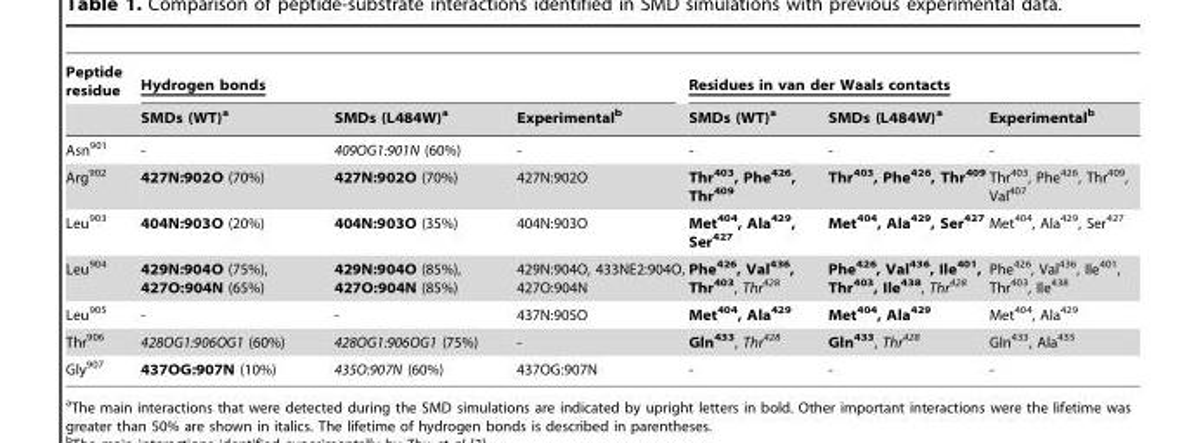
<table><thead><tr><td rowspan="2">Peptide residue</td><td colspan="3">Hydrogen bonds</td><td colspan="3">Residues in van der Waals contacts</td></tr><tr><td>SMDs (WT)<sup>a</sup></td><td>SMDs (L484W)<sup>a</sup></td><td>Experimental<sup>b</sup></td><td>SMDs (WT)<sup>a</sup></td><td>SMDs (L484W)<sup>a</sup></td><td>Experimental<sup>b</sup></td></tr></thead><tbody><tr><td>Asn<sup>901</sup></td><td>-</td><td>409OG1:901N (60%)</td><td>-</td><td>-</td><td>-</td><td>-</td></tr><tr><td>Arg<sup>902</sup></td><td>427N:902O (70%)</td><td>427N:902O (70%)</td><td>427N:902O</td><td>Thr<sup>403</sup>, Phe<sup>426</sup>, Thr<sup>409</sup></td><td>Thr<sup>403</sup>, Phe<sup>426</sup>, Thr<sup>409</sup></td><td>Thr<sup>403</sup>, Phe<sup>426</sup>, Thr<sup>409</sup>, Val<sup>407</sup></td></tr><tr><td>Leu<sup>903</sup></td><td>404N:903O (20%)</td><td>404N:903O (35%)</td><td>404N:903O</td><td>Met<sup>404</sup>, Ala<sup>429</sup>, Ser<sup>427</sup></td><td>Met<sup>404</sup>, Ala<sup>429</sup>, Ser<sup>427</sup></td><td>Met<sup>404</sup>, Ala<sup>429</sup>, Ser<sup>427</sup></td></tr><tr><td>Leu<sup>904</sup></td><td>429N:904O (75%), 427O:904N (65%)</td><td>429N:904O (85%), 427O:904N (85%)</td><td>429N:904O, 433NE2:904O, 427O:904N</td><td>Phe<sup>426</sup>, Val<sup>436</sup>, Thr<sup>403</sup>, Thr<sup>428</sup></td><td>Phe<sup>426</sup>, Val<sup>436</sup>, Ile<sup>401</sup>, Thr<sup>403</sup>, Ile<sup>438</sup>, Thr<sup>428</sup></td><td>Phe<sup>426</sup>, Val<sup>436</sup>, Ile<sup>401</sup>, Thr<sup>403</sup>, Ile<sup>438</sup></td></tr><tr><td>Leu<sup>905</sup></td><td>-</td><td>-</td><td>437N:905O</td><td>Met<sup>404</sup>, Ala<sup>429</sup></td><td>Met<sup>404</sup>, Ala<sup>429</sup></td><td>Met<sup>404</sup>, Ala<sup>429</sup></td></tr><tr><td>Thr<sup>906</sup></td><td>428OG1:906OG1 (60%)</td><td>428OG1:906OG1 (75%)</td><td>-</td><td>Gln<sup>433</sup>, Thr<sup>428</sup></td><td>Gln<sup>433</sup>, Thr<sup>428</sup></td><td>Gln<sup>433</sup>, Ala<sup>435</sup></td></tr><tr><td>Gly<sup>907</sup></td><td>437OG:907N (10%)</td><td>435O:907N (60%)</td><td>437OG:907N</td><td>-</td><td>-</td><td>-</td></tr></tbody></table>